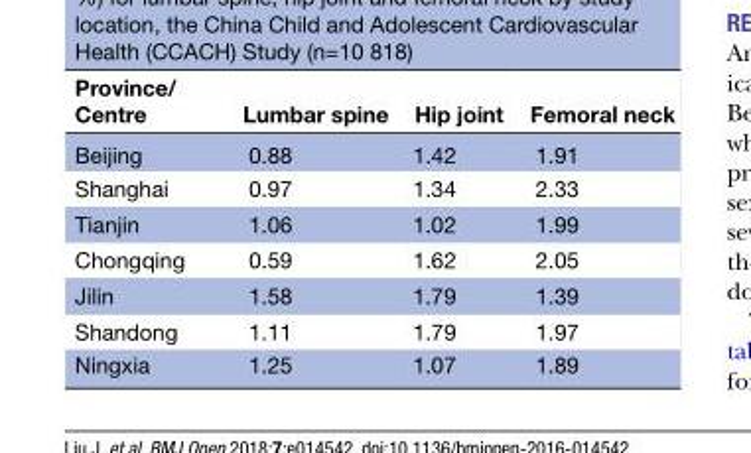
<table><thead><tr><td>Province/ Centre</td><td>Lumbar spine</td><td>Hip joint</td><td>Femoral neck</td></tr></thead><tbody><tr><td>Beijing</td><td>0.88</td><td>1.42</td><td>1.91</td></tr><tr><td>Shanghai</td><td>0.97</td><td>1.34</td><td>2.33</td></tr><tr><td>Tianjin</td><td>1.06</td><td>1.02</td><td>1.99</td></tr><tr><td>Chongqing</td><td>0.59</td><td>1.62</td><td>2.05</td></tr><tr><td>Jilin</td><td>1.58</td><td>1.79</td><td>1.39</td></tr><tr><td>Shandong</td><td>1.11</td><td>1.79</td><td>1.97</td></tr><tr><td>Ningxia</td><td>1.25</td><td>1.07</td><td>1.89</td></tr></tbody></table>